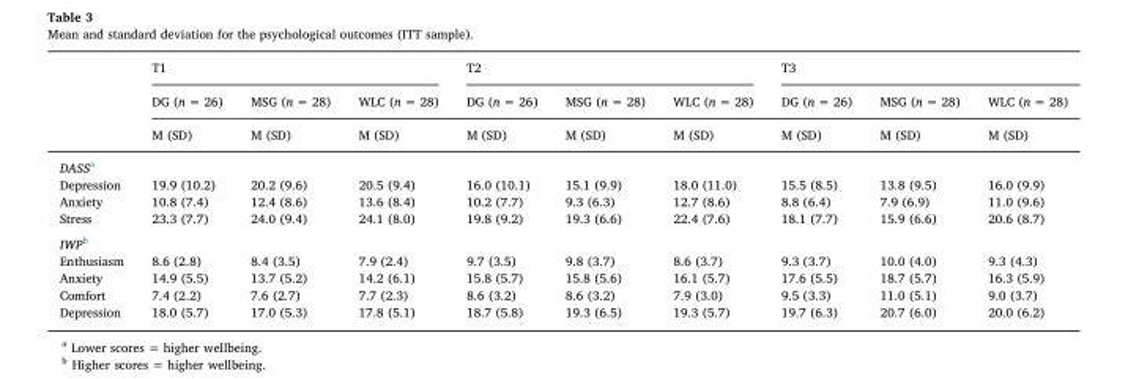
<table><thead><tr><td rowspan="3"></td><td colspan="3">T1</td><td colspan="3">T2</td><td colspan="3">T3</td></tr><tr><td rowspan="2">DG (n = 26) M (SD)</td><td rowspan="2">MSG (n = 28) M (SD)</td><td rowspan="2">WLC (n = 28) M (SD)</td><td rowspan="2">DG (n = 26) M (SD)</td><td rowspan="2">MSG (n = 28) M (SD)</td><td rowspan="2">WLC (n = 28) M (SD)</td><td rowspan="2">DG (n = 26) M (SD)</td><td rowspan="2">MSG (n = 28) M (SD)</td><td rowspan="2">WLC (n = 28) M (SD)</td></tr><tr></tr></thead><tbody><tr><td colspan="10">DASSa</td></tr><tr><td>Depression</td><td>19.9 (10.2)</td><td>20.2 (9.6)</td><td>20.5 (9.4)</td><td>16.0 (10.1)</td><td>15.1 (9.9)</td><td>18.0 (11.0)</td><td>15.5 (8.5)</td><td>13.8 (9.5)</td><td>16.0 (9.9)</td></tr><tr><td>Anxiety</td><td>10.8 (7.4)</td><td>12.4 (8.6)</td><td>13.6 (8.4)</td><td>10.2 (7.7)</td><td>9.3 (6.3)</td><td>12.7 (8.6)</td><td>8.8 (6.4)</td><td>7.9 (6.9)</td><td>11.0 (9.6)</td></tr><tr><td>Stress</td><td>23.3 (7.7)</td><td>24.0 (9.4)</td><td>24.1 (8.0)</td><td>19.8 (9.2)</td><td>19.3 (6.6)</td><td>22.4 (7.6)</td><td>18.1 (7.7)</td><td>15.9 (6.6)</td><td>20.6 (8.7)</td></tr><tr><td colspan="10">IWPb</td></tr><tr><td>Enthusiasm</td><td>8.6 (2.8)</td><td>8.4 (3.5)</td><td>7.9 (2.4)</td><td>9.7 (3.5)</td><td>9.8 (3.7)</td><td>8.6 (3.7)</td><td>9.3 (3.7)</td><td>10.0 (4.0)</td><td>9.3 (4.3)</td></tr><tr><td>Anxiety</td><td>14.9 (5.5)</td><td>13.7 (5.2)</td><td>14.2 (6.1)</td><td>15.8 (5.7)</td><td>15.8 (5.6)</td><td>16.1 (5.7)</td><td>17.6 (5.5)</td><td>18.7 (5.7)</td><td>16.3 (5.9)</td></tr><tr><td>Comfort</td><td>7.4 (2.2)</td><td>7.6 (2.7)</td><td>7.7 (2.3)</td><td>8.6 (3.2)</td><td>8.6 (3.2)</td><td>7.9 (3.0)</td><td>9.5 (3.3)</td><td>11.0 (5.1)</td><td>9.0 (3.7)</td></tr><tr><td>Depression</td><td>18.0 (5.7)</td><td>17.0 (5.3)</td><td>17.8 (5.1)</td><td>18.7 (5.8)</td><td>19.3 (6.5)</td><td>19.3 (5.7)</td><td>19.7 (6.3)</td><td>20.7 (6.0)</td><td>20.0 (6.2)</td></tr></tbody></table>